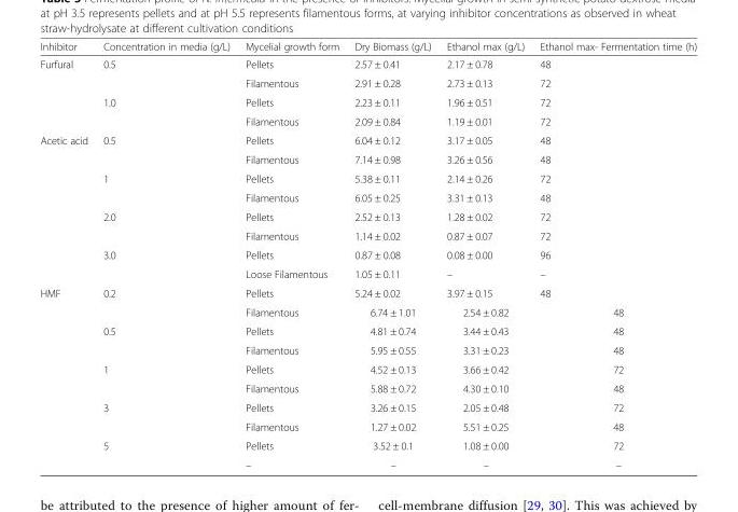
<table><thead><tr><td>Inhibitor</td><td>Concentration in media (g/L)</td><td>Mycelial growth form</td><td>Dry Biomass (g/L)</td><td>Ethanol max (g/L)</td><td>Ethanol max- Fermentation time (h)</td></tr></thead><tbody><tr><td rowspan="4">Furfural</td><td rowspan="2">0.5</td><td>Pellets</td><td>2.57 ± 0.41</td><td>2.17 ± 0.78</td><td>48</td></tr><tr><td>Filamentous</td><td>2.91 ± 0.28</td><td>2.73 ± 0.13</td><td>72</td></tr><tr><td rowspan="2">1.0</td><td>Pellets</td><td>2.23 ± 0.11</td><td>1.96 ± 0.51</td><td>72</td></tr><tr><td>Filamentous</td><td>2.09 ± 0.84</td><td>1.19 ± 0.01</td><td>72</td></tr><tr><td rowspan="8">Acetic acid</td><td rowspan="2">0.5</td><td>Pellets</td><td>6.04 ± 0.12</td><td>3.17 ± 0.05</td><td>48</td></tr><tr><td>Filamentous</td><td>7.14 ± 0.98</td><td>3.26 ± 0.56</td><td>48</td></tr><tr><td rowspan="2">1</td><td>Pellets</td><td>5.38 ± 0.11</td><td>2.14 ± 0.26</td><td>72</td></tr><tr><td>Filamentous</td><td>6.05 ± 0.25</td><td>3.31 ± 0.13</td><td>48</td></tr><tr><td rowspan="2">2.0</td><td>Pellets</td><td>2.52 ± 0.13</td><td>1.28 ± 0.02</td><td>72</td></tr><tr><td>Filamentous</td><td>1.14 ± 0.02</td><td>0.87 ± 0.07</td><td>72</td></tr><tr><td rowspan="2">3.0</td><td>Pellets</td><td>0.87 ± 0.08</td><td>0.08 ± 0.00</td><td>96</td></tr><tr><td>Loose Filamentous</td><td>1.05 ± 0.11</td><td>–</td><td>–</td></tr><tr><td rowspan="10">HMF</td><td rowspan="2">0.2</td><td>Pellets</td><td>5.24 ± 0.02</td><td>3.97 ± 0.15</td><td>48</td></tr><tr><td>Filamentous</td><td>6.74 ± 1.01</td><td>2.54 ± 0.82</td><td>48</td></tr><tr><td rowspan="2">0.5</td><td>Pellets</td><td>4.81 ± 0.74</td><td>3.44 ± 0.43</td><td>48</td></tr><tr><td>Filamentous</td><td>5.95 ± 0.55</td><td>3.31 ± 0.23</td><td>48</td></tr><tr><td rowspan="2">1</td><td>Pellets</td><td>4.52 ± 0.13</td><td>3.66 ± 0.42</td><td>72</td></tr><tr><td>Filamentous</td><td>5.88 ± 0.72</td><td>4.30 ± 0.10</td><td>48</td></tr><tr><td rowspan="2">3</td><td>Pellets</td><td>3.26 ± 0.15</td><td>2.05 ± 0.48</td><td>72</td></tr><tr><td>Filamentous</td><td>1.27 ± 0.02</td><td>5.51 ± 0.25</td><td>48</td></tr><tr><td rowspan="2">5</td><td>Pellets</td><td>3.52 ± 0.1</td><td>1.08 ± 0.00</td><td>72</td></tr><tr><td>–</td><td>–</td><td>–</td><td>–</td></tr></tbody></table>